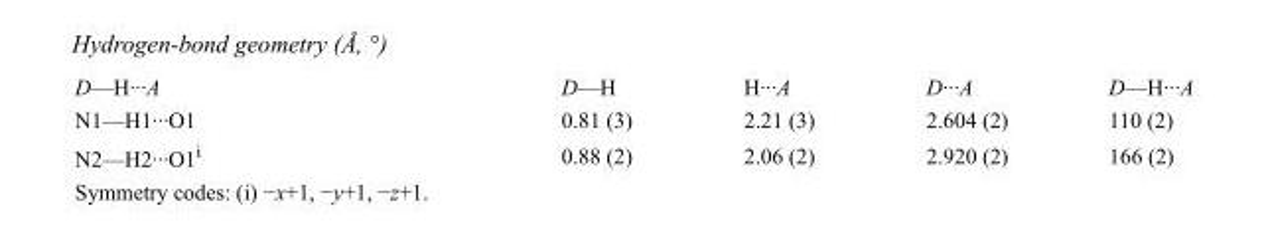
<table><tbody><tr><td>D—H···A</td><td>D—H</td><td>H···A</td><td>D···A</td><td>D—H···A</td></tr><tr><td>N1—H1···O1</td><td>0.81 (3)</td><td>2.21 (3)</td><td>2.604 (2)</td><td>110 (2)</td></tr><tr><td>N2—H2···O1<sup>i</sup></td><td>0.88 (2)</td><td>2.06 (2)</td><td>2.920 (2)</td><td>166 (2)</td></tr></tbody></table>